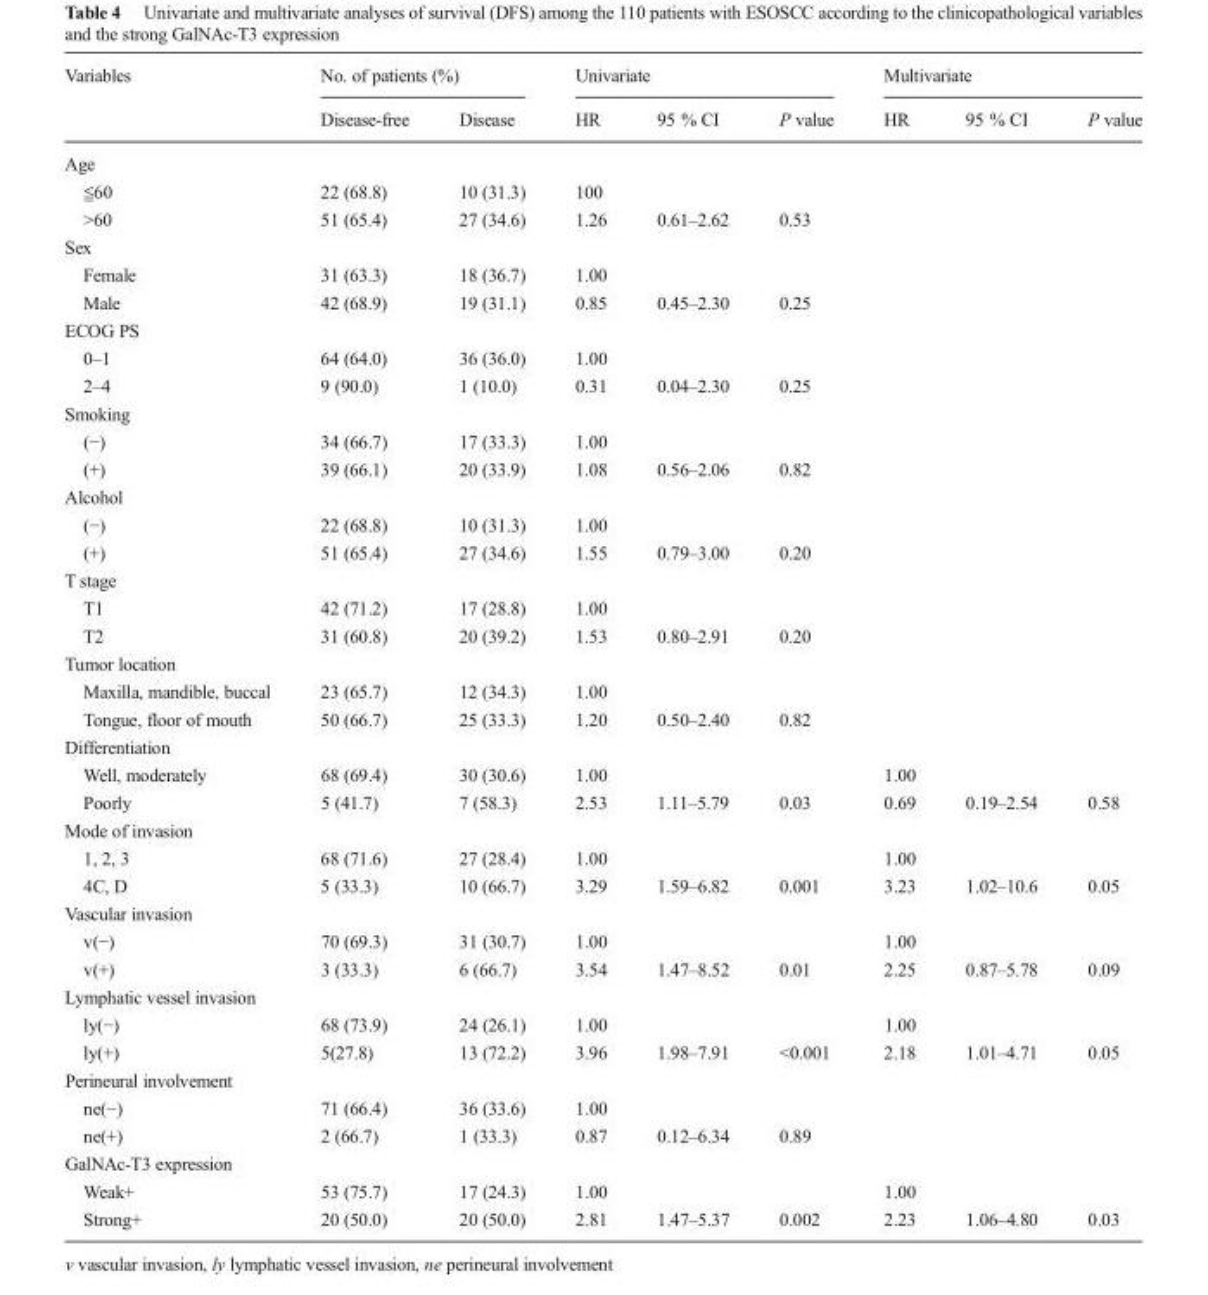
<table><thead><tr><td rowspan="2">Variables</td><td colspan="2">No. of patients (%)</td><td colspan="3">Univariate</td><td colspan="3">Multivariate</td></tr><tr><td>Disease-free</td><td>Disease</td><td>HR</td><td>95 % CI</td><td>P value</td><td>HR</td><td>95 % CI</td><td>P value</td></tr></thead><tbody><tr><td colspan="9">Age</td></tr><tr><td>≦60</td><td>22 (68.8)</td><td>10 (31.3)</td><td>100</td><td></td><td></td><td></td><td></td><td></td></tr><tr><td>&gt;60</td><td>51 (65.4)</td><td>27 (34.6)</td><td>1.26</td><td>0.61–2.62</td><td>0.53</td><td></td><td></td><td></td></tr><tr><td colspan="9">Sex</td></tr><tr><td>Female</td><td>31 (63.3)</td><td>18 (36.7)</td><td>1.00</td><td></td><td></td><td></td><td></td><td></td></tr><tr><td>Male</td><td>42 (68.9)</td><td>19 (31.1)</td><td>0.85</td><td>0.45–2.30</td><td>0.25</td><td></td><td></td><td></td></tr><tr><td colspan="9">ECOG PS</td></tr><tr><td>0–1</td><td>64 (64.0)</td><td>36 (36.0)</td><td>1.00</td><td></td><td></td><td></td><td></td><td></td></tr><tr><td>2–4</td><td>9 (90.0)</td><td>1 (10.0)</td><td>0.31</td><td>0.04–2.30</td><td>0.25</td><td></td><td></td><td></td></tr><tr><td colspan="9">Smoking</td></tr><tr><td>(−)</td><td>34 (66.7)</td><td>17 (33.3)</td><td>1.00</td><td></td><td></td><td></td><td></td><td></td></tr><tr><td>(+)</td><td>39 (66.1)</td><td>20 (33.9)</td><td>1.08</td><td>0.56–2.06</td><td>0.82</td><td></td><td></td><td></td></tr><tr><td colspan="9">Alcohol</td></tr><tr><td>(−)</td><td>22 (68.8)</td><td>10 (31.3)</td><td>1.00</td><td></td><td></td><td></td><td></td><td></td></tr><tr><td>(+)</td><td>51 (65.4)</td><td>27 (34.6)</td><td>1.55</td><td>0.79–3.00</td><td>0.20</td><td></td><td></td><td></td></tr><tr><td colspan="9">T stage</td></tr><tr><td>T1</td><td>42 (71.2)</td><td>17 (28.8)</td><td>1.00</td><td></td><td></td><td></td><td></td><td></td></tr><tr><td>T2</td><td>31 (60.8)</td><td>20 (39.2)</td><td>1.53</td><td>0.80–2.91</td><td>0.20</td><td></td><td></td><td></td></tr><tr><td colspan="9">Tumor location</td></tr><tr><td>Maxilla, mandible, buccal</td><td>23 (65.7)</td><td>12 (34.3)</td><td>1.00</td><td></td><td></td><td></td><td></td><td></td></tr><tr><td>Tongue, floor of mouth</td><td>50 (66.7)</td><td>25 (33.3)</td><td>1.20</td><td>0.50–2.40</td><td>0.82</td><td></td><td></td><td></td></tr><tr><td colspan="9">Differentiation</td></tr><tr><td>Well, moderately</td><td>68 (69.4)</td><td>30 (30.6)</td><td>1.00</td><td></td><td></td><td>1.00</td><td></td><td></td></tr><tr><td>Poorly</td><td>5 (41.7)</td><td>7 (58.3)</td><td>2.53</td><td>1.11–5.79</td><td>0.03</td><td>0.69</td><td>0.19–2.54</td><td>0.58</td></tr><tr><td colspan="9">Mode of invasion</td></tr><tr><td>1, 2, 3</td><td>68 (71.6)</td><td>27 (28.4)</td><td>1.00</td><td></td><td></td><td>1.00</td><td></td><td></td></tr><tr><td>4C, D</td><td>5 (33.3)</td><td>10 (66.7)</td><td>3.29</td><td>1.59–6.82</td><td>0.001</td><td>3.23</td><td>1.02–10.6</td><td>0.05</td></tr><tr><td colspan="9">Vascular invasion</td></tr><tr><td>v(−)</td><td>70 (69.3)</td><td>31 (30.7)</td><td>1.00</td><td></td><td></td><td>1.00</td><td></td><td></td></tr><tr><td>v(+)</td><td>3 (33.3)</td><td>6 (66.7)</td><td>3.54</td><td>1.47–8.52</td><td>0.01</td><td>2.25</td><td>0.87–5.78</td><td>0.09</td></tr><tr><td colspan="9">Lymphatic vessel invasion</td></tr><tr><td>ly(−)</td><td>68 (73.9)</td><td>24 (26.1)</td><td>1.00</td><td></td><td></td><td>1.00</td><td></td><td></td></tr><tr><td>ly(+)</td><td>5(27.8)</td><td>13 (72.2)</td><td>3.96</td><td>1.98–7.91</td><td>&lt;0.001</td><td>2.18</td><td>1.01–4.71</td><td>0.05</td></tr><tr><td colspan="9">Perineural involvement</td></tr><tr><td>ne(−)</td><td>71 (66.4)</td><td>36 (33.6)</td><td>1.00</td><td></td><td></td><td></td><td></td><td></td></tr><tr><td>ne(+)</td><td>2 (66.7)</td><td>1 (33.3)</td><td>0.87</td><td>0.12–6.34</td><td>0.89</td><td></td><td></td><td></td></tr><tr><td colspan="9">GalNAc-T3 expression</td></tr><tr><td>Weak+</td><td>53 (75.7)</td><td>17 (24.3)</td><td>1.00</td><td></td><td></td><td>1.00</td><td></td><td></td></tr><tr><td>Strong+</td><td>20 (50.0)</td><td>20 (50.0)</td><td>2.81</td><td>1.47–5.37</td><td>0.002</td><td>2.23</td><td>1.06–4.80</td><td>0.03</td></tr></tbody></table>